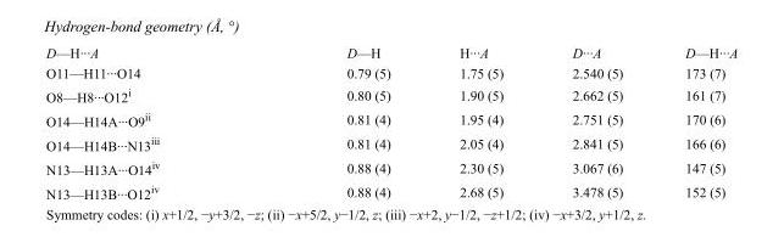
<table><tbody><tr><td>D—H···A</td><td>D—H</td><td>H···A</td><td>D···A</td><td>D—H···A</td></tr><tr><td>O11—H11···O14</td><td>0.79 (5)</td><td>1.75 (5)</td><td>2.540 (5)</td><td>173 (7)</td></tr><tr><td>O8—H8···O12<sup>i</sup></td><td>0.80 (5)</td><td>1.90 (5)</td><td>2.662 (5)</td><td>161 (7)</td></tr><tr><td>O14—H14A···O9<sup>ii</sup></td><td>0.81 (4)</td><td>1.95 (4)</td><td>2.751 (5)</td><td>170 (6)</td></tr><tr><td>O14—H14B···N13<sup>iii</sup></td><td>0.81 (4)</td><td>2.05 (4)</td><td>2.841 (5)</td><td>166 (6)</td></tr><tr><td>N13—H13A···O14<sup>iv</sup></td><td>0.88 (4)</td><td>2.30 (5)</td><td>3.067 (6)</td><td>147 (5)</td></tr><tr><td>N13—H13B···O12<sup>iv</sup></td><td>0.88 (4)</td><td>2.68 (5)</td><td>3.478 (5)</td><td>152 (5)</td></tr></tbody></table>